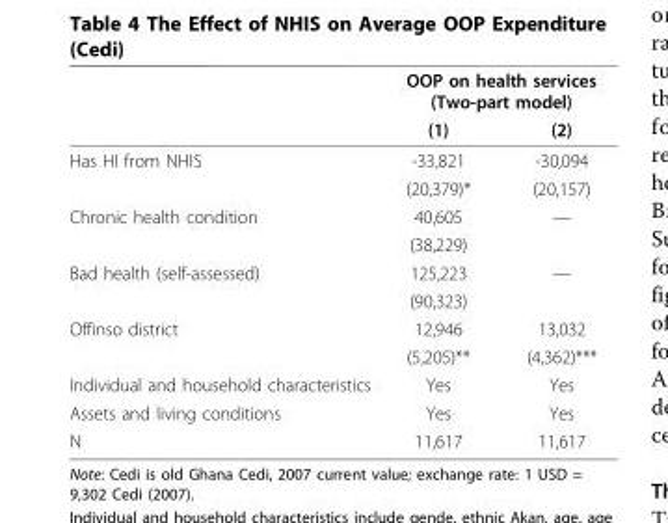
<table><thead><tr><td rowspan="2"></td><td colspan="2">OOP on health services (Two-part model)</td></tr><tr><td>(1)</td><td>(2)</td></tr></thead><tbody><tr><td rowspan="2">Has HI from NHIS</td><td>-33,821</td><td>-30,094</td></tr><tr><td>(20,379)*</td><td>(20,157)</td></tr><tr><td rowspan="2">Chronic health condition</td><td>40,605</td><td>—</td></tr><tr><td>(38,229)</td><td></td></tr><tr><td rowspan="2">Bad health (self-assessed)</td><td>125,223</td><td>—</td></tr><tr><td>(90,323)</td><td></td></tr><tr><td rowspan="2">Offinso district</td><td>12,946</td><td>13,032</td></tr><tr><td>(5,205)**</td><td>(4,362)***</td></tr><tr><td>Individual and household characteristics</td><td>Yes</td><td>Yes</td></tr><tr><td>Assets and living conditions</td><td>Yes</td><td>Yes</td></tr><tr><td>N</td><td>11,617</td><td>11,617</td></tr></tbody></table>